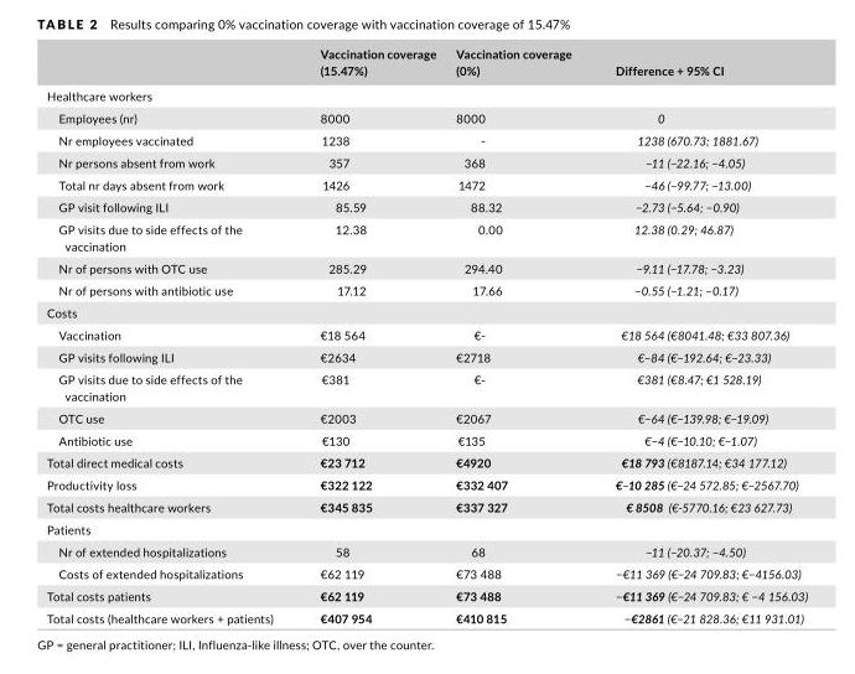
<table><thead><tr><td></td><td>Vaccination coverage (15.47%)</td><td>Vaccination coverage (0%)</td><td>Difference + 95% CI</td></tr></thead><tbody><tr><td colspan="4">Healthcare workers</td></tr><tr><td>Employees (nr)</td><td>8000</td><td>8000</td><td>0</td></tr><tr><td>Nr employees vaccinated</td><td>1238</td><td>-</td><td>1238 (670.73; 1881.67)</td></tr><tr><td>Nr persons absent from work</td><td>357</td><td>368</td><td>−11 (−22.16; −4.05)</td></tr><tr><td>Total nr days absent from work</td><td>1426</td><td>1472</td><td>−46 (−99.77; −13.00)</td></tr><tr><td>GP visit following ILI</td><td>85.59</td><td>88.32</td><td>−2.73 (−5.64; −0.90)</td></tr><tr><td>GP visits due to side effects of the vaccination</td><td>12.38</td><td>0.00</td><td>12.38 (0.29; 46.87)</td></tr><tr><td>Nr of persons with OTC use</td><td>285.29</td><td>294.40</td><td>−9.11 (−17.78; −3.23)</td></tr><tr><td>Nr of persons with antibiotic use</td><td>17.12</td><td>17.66</td><td>−0.55 (−1.21; −0.17)</td></tr><tr><td colspan="4">Costs</td></tr><tr><td>Vaccination</td><td>€18 564</td><td>€-</td><td>€18 564 (€8041.48; €33 807.36)</td></tr><tr><td>GP visits following ILI</td><td>€2634</td><td>€2718</td><td>€−84 (€−192.64; €−23.33)</td></tr><tr><td>GP visits due to side effects of the vaccination</td><td>€381</td><td>€-</td><td>€381 (€8.47; €1 528.19)</td></tr><tr><td>OTC use</td><td>€2003</td><td>€2067</td><td>€−64 (€−139.98; €−19.09)</td></tr><tr><td>Antibiotic use</td><td>€130</td><td>€135</td><td>€−4 (€−10.10; €−1.07)</td></tr><tr><td>Total direct medical costs</td><td>€23 712</td><td>€4920</td><td>€18 793 (€8187.14; €34 177.12)</td></tr><tr><td>Productivity loss</td><td>€322 122</td><td>€332 407</td><td>€−10 285 (€−24 572.85; €−2567.70)</td></tr><tr><td>Total costs healthcare workers</td><td>€345 835</td><td>€337 327</td><td>€ 8508 (€-5770.16; €23 627.73)</td></tr><tr><td colspan="4">Patients</td></tr><tr><td>Nr of extended hospitalizations</td><td>58</td><td>68</td><td>−11 (−20.37; −4.50)</td></tr><tr><td>Costs of extended hospitalizations</td><td>€62 119</td><td>€73 488</td><td>−€11 369 (€−24 709.83; €−4156.03)</td></tr><tr><td>Total costs patients</td><td>€62 119</td><td>€73 488</td><td>−€11 369 (€−24 709.83; € −4 156.03)</td></tr><tr><td>Total costs (healthcare workers + patients)</td><td>€407 954</td><td>€410 815</td><td>−€2861 (€−21 828.36; €11 931.01)</td></tr></tbody></table>